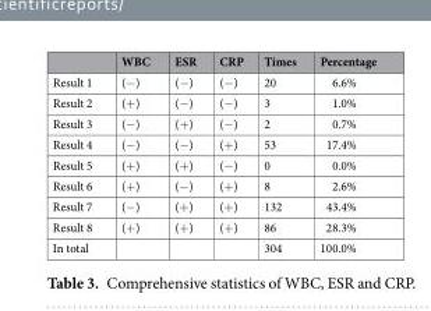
<table><thead><tr><td></td><td>WBC</td><td>ESR</td><td>CRP</td><td>Times</td><td>Percentage</td></tr></thead><tbody><tr><td>Result 1</td><td>(−)</td><td>(−)</td><td>(−)</td><td>20</td><td>6.6%</td></tr><tr><td>Result 2</td><td>(+)</td><td>(−)</td><td>(−)</td><td>3</td><td>1.0%</td></tr><tr><td>Result 3</td><td>(−)</td><td>(+)</td><td>(−)</td><td>2</td><td>0.7%</td></tr><tr><td>Result 4</td><td>(−)</td><td>(−)</td><td>(+)</td><td>53</td><td>17.4%</td></tr><tr><td>Result 5</td><td>(+)</td><td>(+)</td><td>(−)</td><td>0</td><td>0.0%</td></tr><tr><td>Result 6</td><td>(+)</td><td>(−)</td><td>(+)</td><td>8</td><td>2.6%</td></tr><tr><td>Result 7</td><td>(−)</td><td>(+)</td><td>(+)</td><td>132</td><td>43.4%</td></tr><tr><td>Result 8</td><td>(+)</td><td>(+)</td><td>(+)</td><td>86</td><td>28.3%</td></tr><tr><td>In total</td><td></td><td></td><td></td><td>304</td><td>100.0%</td></tr></tbody></table>